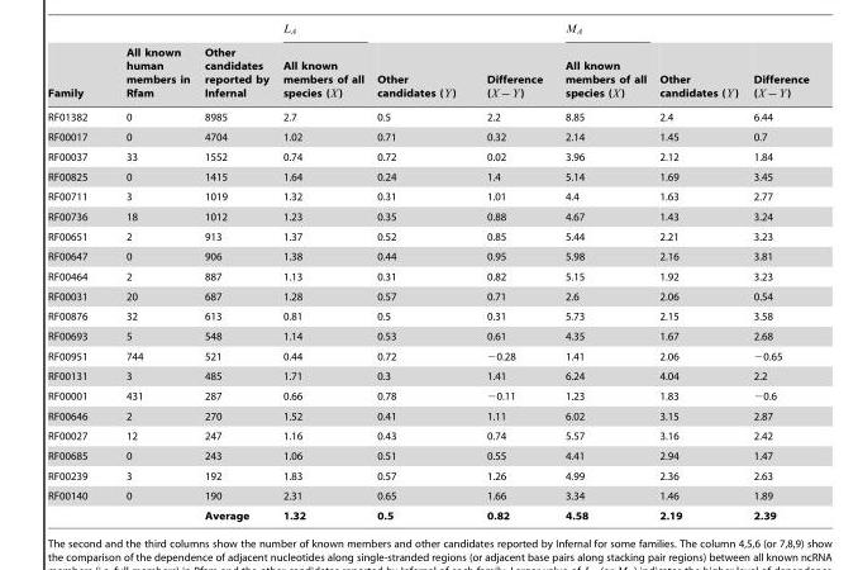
<table><thead><tr><td>Family</td><td>All known human members in Rfam</td><td>Other candidates reported by Infernal</td><td>All known members of all species (X)</td><td>Other candidates (Y)</td><td>Difference (X{Y)</td><td>All known members of all species (X)</td><td>Other candidates (Y)</td><td>Difference (X{Y)</td></tr></thead><tbody><tr><td>RF01382</td><td>0</td><td>8985</td><td>2.7</td><td>0.5</td><td>2.2</td><td>8.85</td><td>2.4</td><td>6.44</td></tr><tr><td>RF00017</td><td>0</td><td>4704</td><td>1.02</td><td>0.71</td><td>0.32</td><td>2.14</td><td>1.45</td><td>0.7</td></tr><tr><td>RF00037</td><td>33</td><td>1552</td><td>0.74</td><td>0.72</td><td>0.02</td><td>3.96</td><td>2.12</td><td>1.84</td></tr><tr><td>RF00825</td><td>0</td><td>1415</td><td>1.64</td><td>0.24</td><td>1.4</td><td>5.14</td><td>1.69</td><td>3.45</td></tr><tr><td>RF00711</td><td>3</td><td>1019</td><td>1.32</td><td>0.31</td><td>1.01</td><td>4.4</td><td>1.63</td><td>2.77</td></tr><tr><td>RF00736</td><td>18</td><td>1012</td><td>1.23</td><td>0.35</td><td>0.88</td><td>4.67</td><td>1.43</td><td>3.24</td></tr><tr><td>RF00651</td><td>2</td><td>913</td><td>1.37</td><td>0.52</td><td>0.85</td><td>5.44</td><td>2.21</td><td>3.23</td></tr><tr><td>RF00647</td><td>0</td><td>906</td><td>1.38</td><td>0.44</td><td>0.95</td><td>5.98</td><td>2.16</td><td>3.81</td></tr><tr><td>RF00464</td><td>2</td><td>887</td><td>1.13</td><td>0.31</td><td>0.82</td><td>5.15</td><td>1.92</td><td>3.23</td></tr><tr><td>RF00031</td><td>20</td><td>687</td><td>1.28</td><td>0.57</td><td>0.71</td><td>2.6</td><td>2.06</td><td>0.54</td></tr><tr><td>RF00876</td><td>32</td><td>613</td><td>0.81</td><td>0.5</td><td>0.31</td><td>5.73</td><td>2.15</td><td>3.58</td></tr><tr><td>RF00693</td><td>5</td><td>548</td><td>1.14</td><td>0.53</td><td>0.61</td><td>4.35</td><td>1.67</td><td>2.68</td></tr><tr><td>RF00951</td><td>744</td><td>521</td><td>0.44</td><td>0.72</td><td>−0.28</td><td>1.41</td><td>2.06</td><td>−0.65</td></tr><tr><td>RF00131</td><td>3</td><td>485</td><td>1.71</td><td>0.3</td><td>1.41</td><td>6.24</td><td>4.04</td><td>2.2</td></tr><tr><td>RF00001</td><td>431</td><td>287</td><td>0.66</td><td>0.78</td><td>−0.11</td><td>1.23</td><td>1.83</td><td>−0.6</td></tr><tr><td>RF00646</td><td>2</td><td>270</td><td>1.52</td><td>0.41</td><td>1.11</td><td>6.02</td><td>3.15</td><td>2.87</td></tr><tr><td>RF00027</td><td>12</td><td>247</td><td>1.16</td><td>0.43</td><td>0.74</td><td>5.57</td><td>3.16</td><td>2.42</td></tr><tr><td>RF00685</td><td>0</td><td>243</td><td>1.06</td><td>0.51</td><td>0.55</td><td>4.41</td><td>2.94</td><td>1.47</td></tr><tr><td>RF00239</td><td>3</td><td>192</td><td>1.83</td><td>0.57</td><td>1.26</td><td>4.99</td><td>2.36</td><td>2.63</td></tr><tr><td rowspan="2">RF00140</td><td>0</td><td>190</td><td>2.31</td><td>0.65</td><td>1.66</td><td>3.34</td><td>1.46</td><td>1.89</td></tr><tr><td></td><td>Average</td><td>1.32</td><td>0.5</td><td>0.82</td><td>4.58</td><td>2.19</td><td>2.39</td></tr></tbody></table>